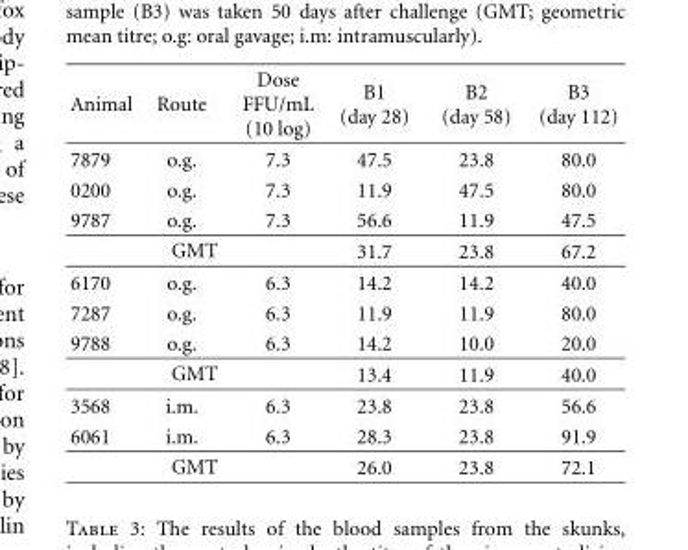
<table><thead><tr><td>Animal</td><td>Route</td><td>Dose FFU/mL (10 log)</td><td>B1 (day 28)</td><td>B2 (day 58)</td><td>B3 (day 112)</td></tr></thead><tbody><tr><td>7879</td><td>o.g.</td><td>7.3</td><td>47.5</td><td>23.8</td><td>80.0</td></tr><tr><td>0200</td><td>o.g.</td><td>7.3</td><td>11.9</td><td>47.5</td><td>80.0</td></tr><tr><td>9787</td><td>o.g.</td><td>7.3</td><td>56.6</td><td>11.9</td><td>47.5</td></tr><tr><td colspan="3">GMT</td><td>31.7</td><td>23.8</td><td>67.2</td></tr><tr><td>6170</td><td>o.g.</td><td>6.3</td><td>14.2</td><td>14.2</td><td>40.0</td></tr><tr><td>7287</td><td>o.g.</td><td>6.3</td><td>11.9</td><td>11.9</td><td>80.0</td></tr><tr><td>9788</td><td>o.g.</td><td>6.3</td><td>14.2</td><td>10.0</td><td>20.0</td></tr><tr><td colspan="3">GMT</td><td>13.4</td><td>11.9</td><td>40.0</td></tr><tr><td>3568</td><td>i.m.</td><td>6.3</td><td>23.8</td><td>23.8</td><td>56.6</td></tr><tr><td>6061</td><td>i.m.</td><td>6.3</td><td>28.3</td><td>23.8</td><td>91.9</td></tr><tr><td colspan="3">GMT</td><td>26.0</td><td>23.8</td><td>72.1</td></tr></tbody></table>